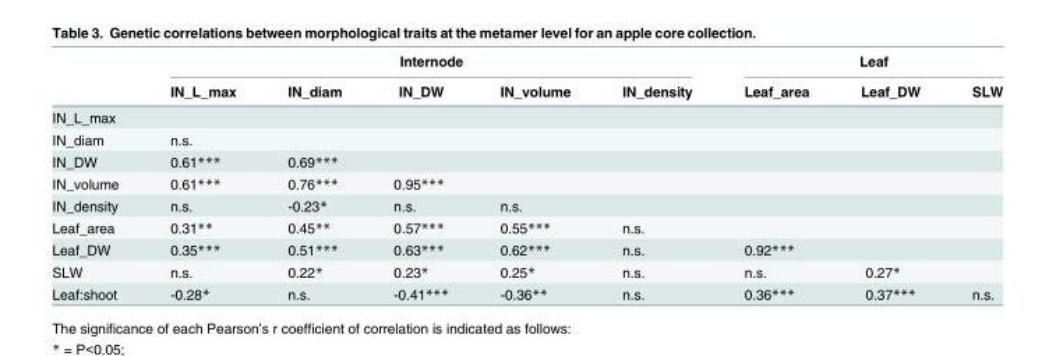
<table><thead><tr><td rowspan="2"></td><td colspan="5">Internode</td><td colspan="3">Leaf</td></tr><tr><td>IN_L_max</td><td>IN_diam</td><td>IN_DW</td><td>IN_volume</td><td>IN_density</td><td>Leaf_area</td><td>Leaf_DW</td><td>SLW</td></tr></thead><tbody><tr><td colspan="9">IN_L_max</td></tr><tr><td>IN_diam</td><td>n.s.</td><td></td><td></td><td></td><td></td><td></td><td></td><td></td></tr><tr><td>IN_DW</td><td>0.61***</td><td>0.69***</td><td></td><td></td><td></td><td></td><td></td><td></td></tr><tr><td>IN_volume</td><td>0.61***</td><td>0.76***</td><td>0.95***</td><td></td><td></td><td></td><td></td><td></td></tr><tr><td>IN_density</td><td>n.s.</td><td>-0.23*</td><td>n.s.</td><td>n.s.</td><td></td><td></td><td></td><td></td></tr><tr><td>Leaf_area</td><td>0.31**</td><td>0.45**</td><td>0.57***</td><td>0.55***</td><td>n.s.</td><td></td><td></td><td></td></tr><tr><td>Leaf_DW</td><td>0.35***</td><td>0.51***</td><td>0.63***</td><td>0.62***</td><td>n.s.</td><td>0.92***</td><td></td><td></td></tr><tr><td>SLW</td><td>n.s.</td><td>0.22*</td><td>0.23*</td><td>0.25*</td><td>n.s.</td><td>n.s.</td><td>0.27*</td><td></td></tr><tr><td>Leaf:shoot</td><td>-0.28*</td><td>n.s.</td><td>-0.41***</td><td>-0.36**</td><td>n.s.</td><td>0.36***</td><td>0.37***</td><td>n.s.</td></tr></tbody></table>